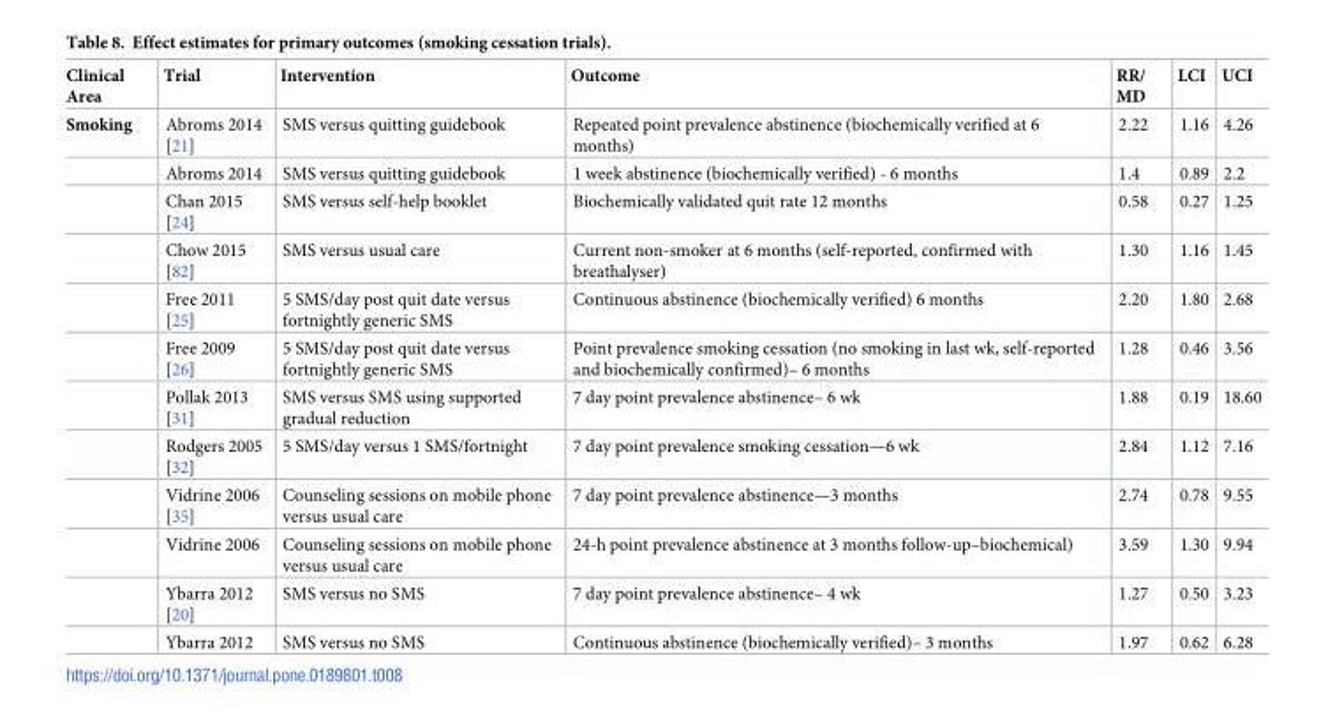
<table><thead><tr><td>Clinical Area</td><td>Trial</td><td>Intervention</td><td>Outcome</td><td>RR/ MD</td><td>LCI</td><td>UCI</td></tr></thead><tbody><tr><td rowspan="12">Smoking</td><td>Abroms 2014 [21]</td><td>SMS versus quitting guidebook</td><td>Repeated point prevalence abstinence (biochemically verified at 6 months)</td><td>2.22</td><td>1.16</td><td>4.26</td></tr><tr><td>Abroms 2014</td><td>SMS versus quitting guidebook</td><td>1 week abstinence (biochemically verified) - 6 months</td><td>1.4</td><td>0.89</td><td>2.2</td></tr><tr><td>Chan 2015 [24]</td><td>SMS versus self-help booklet</td><td>Biochemically validated quit rate 12 months</td><td>0.58</td><td>0.27</td><td>1.25</td></tr><tr><td>Chow 2015 [82]</td><td>SMS versus usual care</td><td>Current non-smoker at 6 months (self-reported, confirmed with breathalyser)</td><td>1.30</td><td>1.16</td><td>1.45</td></tr><tr><td>Free 2011 [25]</td><td>5 SMS/day post quit date versus fortnightly generic SMS</td><td>Continuous abstinence (biochemically verified) 6 months</td><td>2.20</td><td>1.80</td><td>2.68</td></tr><tr><td>Free 2009 [26]</td><td>5 SMS/day post quit date versus fortnightly generic SMS</td><td>Point prevalence smoking cessation (no smoking in last wk, self-reported and biochemically confirmed)– 6 months</td><td>1.28</td><td>0.46</td><td>3.56</td></tr><tr><td>Pollak 2013 [31]</td><td>SMS versus SMS using supported gradual reduction</td><td>7 day point prevalence abstinence– 6 wk</td><td>1.88</td><td>0.19</td><td>18.60</td></tr><tr><td>Rodgers 2005 [32]</td><td>5 SMS/day versus 1 SMS/fortnight</td><td>7 day point prevalence smoking cessation—6 wk</td><td>2.84</td><td>1.12</td><td>7.16</td></tr><tr><td>Vidrine 2006 [35]</td><td>Counseling sessions on mobile phone versus usual care</td><td>7 day point prevalence abstinence—3 months</td><td>2.74</td><td>0.78</td><td>9.55</td></tr><tr><td>Vidrine 2006</td><td>Counseling sessions on mobile phone versus usual care</td><td>24-h point prevalence abstinence at 3 months follow-up–biochemical)</td><td>3.59</td><td>1.30</td><td>9.94</td></tr><tr><td>Ybarra 2012 [20]</td><td>SMS versus no SMS</td><td>7 day point prevalence abstinence– 4 wk</td><td>1.27</td><td>0.50</td><td>3.23</td></tr><tr><td>Ybarra 2012</td><td>SMS versus no SMS</td><td>Continuous abstinence (biochemically verified)– 3 months</td><td>1.97</td><td>0.62</td><td>6.28</td></tr></tbody></table>